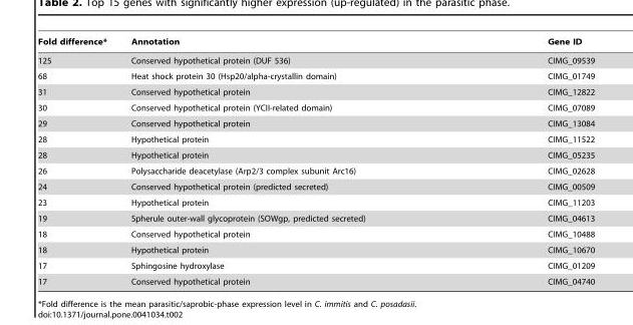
<table><thead><tr><td>Fold difference*</td><td>Annotation</td><td>Gene ID</td></tr></thead><tbody><tr><td>125</td><td>Conserved hypothetical protein (DUF 536)</td><td>CIMG_09539</td></tr><tr><td>68</td><td>Heat shock protein 30 (Hsp20/alpha-crystallin domain)</td><td>CIMG_01749</td></tr><tr><td>31</td><td>Conserved hypothetical protein</td><td>CIMG_12822</td></tr><tr><td>30</td><td>Conserved hypothetical protein (YCII-related domain)</td><td>CIMG_07089</td></tr><tr><td>29</td><td>Conserved hypothetical protein</td><td>CIMG_13084</td></tr><tr><td>28</td><td>Hypothetical protein</td><td>CIMG_11522</td></tr><tr><td>28</td><td>Hypothetical protein</td><td>CIMG_05235</td></tr><tr><td>26</td><td>Polysaccharide deacetylase (Arp2/3 complex subunit Arc16)</td><td>CIMG_02628</td></tr><tr><td>24</td><td>Conserved hypothetical protein (predicted secreted)</td><td>CIMG_00509</td></tr><tr><td>23</td><td>Hypothetical protein</td><td>CIMG_11203</td></tr><tr><td>19</td><td>Spherule outer-wall glycoprotein (SOWgp, predicted secreted)</td><td>CIMG_04613</td></tr><tr><td>18</td><td>Conserved hypothetical protein</td><td>CIMG_10488</td></tr><tr><td>18</td><td>Hypothetical protein</td><td>CIMG_10670</td></tr><tr><td>17</td><td>Sphingosine hydroxylase</td><td>CIMG_01209</td></tr><tr><td>17</td><td>Conserved hypothetical protein</td><td>CIMG_04740</td></tr></tbody></table>